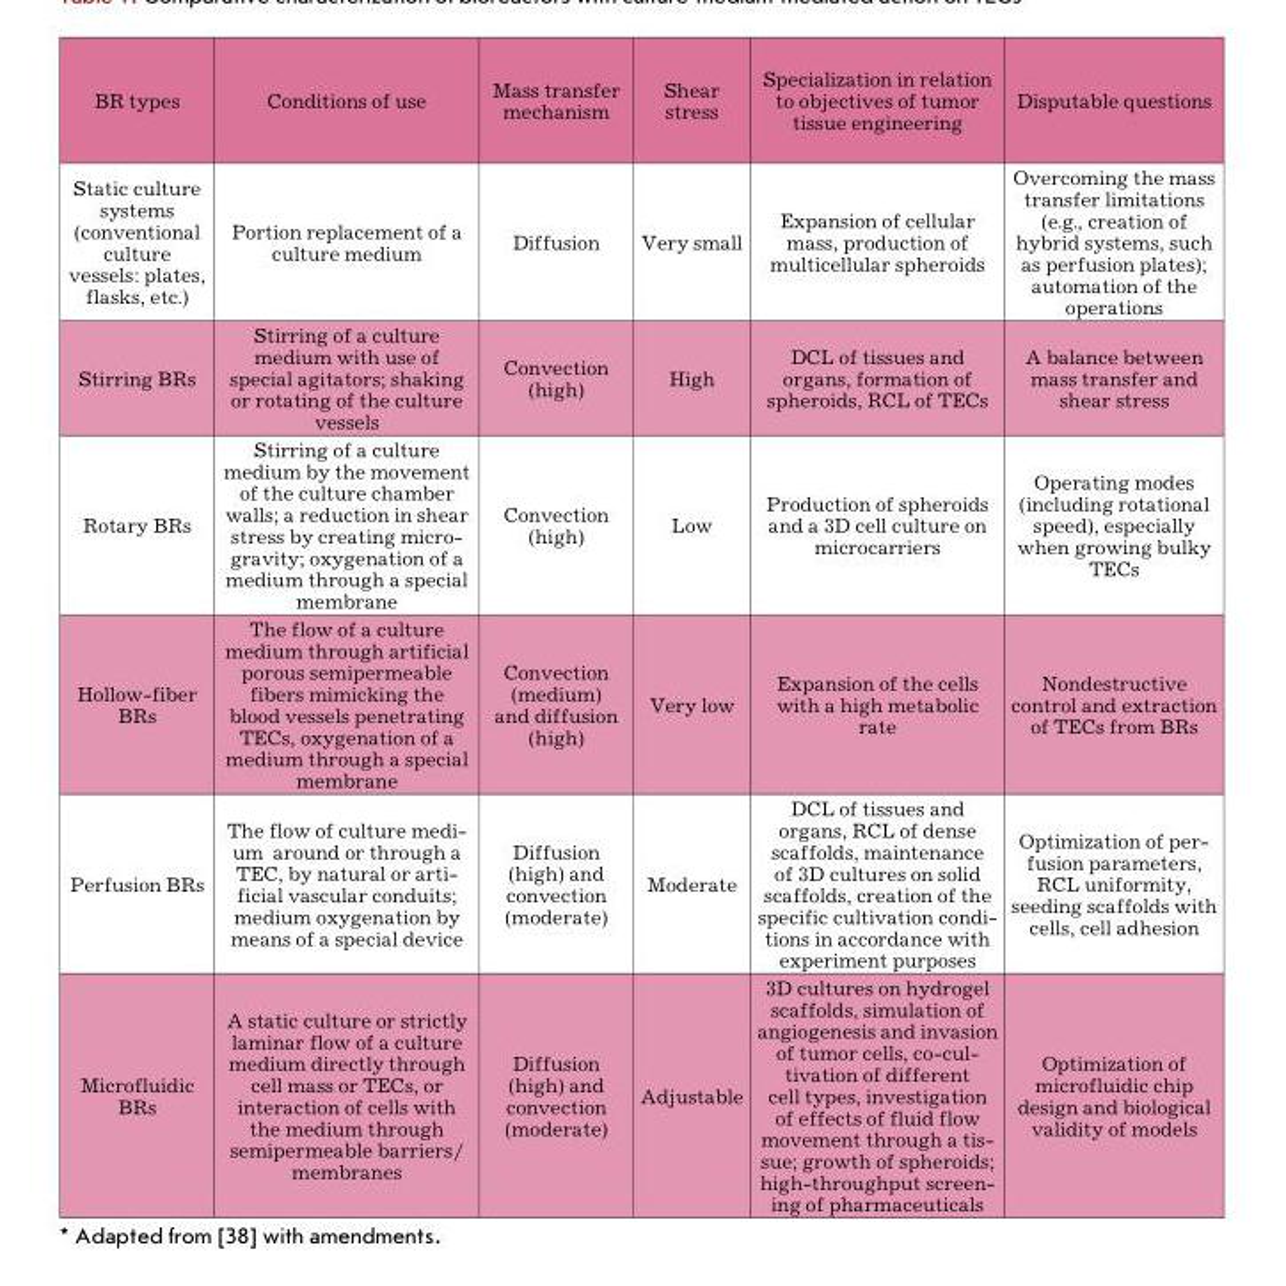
<table><thead><tr><td>BR types</td><td>Conditions of use</td><td>Mass transfer mechanism</td><td>Shear stress</td><td>Specialization in relation to objectives of tumor tissue engineering</td><td>Disputable questions</td></tr></thead><tbody><tr><td>Static culture systems (conventional culture vessels: plates, flasks, etc.)</td><td>Portion replacement of a culture medium</td><td>Diffusion</td><td>Very small</td><td>Expansion of cellular mass, production of multicellular spheroids</td><td>Overcoming the mass transfer limitations (e.g., creation of hybrid systems, such as perfusion plates); automation of the operations</td></tr><tr><td>Stirring BRs</td><td>Stirring of a culture medium with use of special agitators; shaking or rotating of the culture vessels</td><td>Convection (high)</td><td>High</td><td>DCL of tissues and organs, formation of spheroids, RCL of TECs</td><td>A balance between mass transfer and shear stress</td></tr><tr><td>Rotary BRs</td><td>Stirring of a culture medium by the movement of the culture chamber walls; a reduction in shear stress by creating micro- gravity; oxygenation of a medium through a special membrane</td><td>Convection (high)</td><td>Low</td><td>Production of spheroids and a 3D cell culture on microcarriers</td><td>Operating modes (including rotational speed), especially when growing bulky TECs</td></tr><tr><td>Hollow-fiber BRs</td><td>The flow of a culture medium through artificial porous semipermeable fibers mimicking the blood vessels penetrating TECs, oxygenation of a medium through a special membrane</td><td>Convection (medium) and diffusion (high)</td><td>Very low</td><td>Expansion of the cells with a high metabolic rate</td><td>Nondestructive control and extraction of TECs from BRs</td></tr><tr><td>Perfusion BRs</td><td>The flow of culture medi- um around or through a TEC, by natural or arti- ficial vascular conduits; medium oxygenation by means of a special device</td><td>Diffusion (high) and convection (moderate)</td><td>Moderate</td><td>DCL of tissues and organs, RCL of dense scaffolds, maintenance of 3D cultures on solid scaffolds, creation of the specific cultivation condi- tions in accordance with experiment purposes</td><td>Optimization of per- fusion parameters, RCL uniformity, seeding scaffolds with cells, cell adhesion</td></tr><tr><td>Microfluidic BRs</td><td>A static culture or strictly laminar flow of a culture medium directly through cell mass or TECs, or interaction of cells with the medium through semipermeable barriers/ membranes</td><td>Diffusion (high) and convection (moderate)</td><td>Adjustable</td><td>3D cultures on hydrogel scaffolds, simulation of angiogenesis and invasion of tumor cells, co-cul- tivation of different cell types, investigation of effects of fluid flow movement through a tis- sue; growth of spheroids; high-throughput screen- ing of pharmaceuticals</td><td>Optimization of microfluidic chip design and biological validity of models</td></tr></tbody></table>